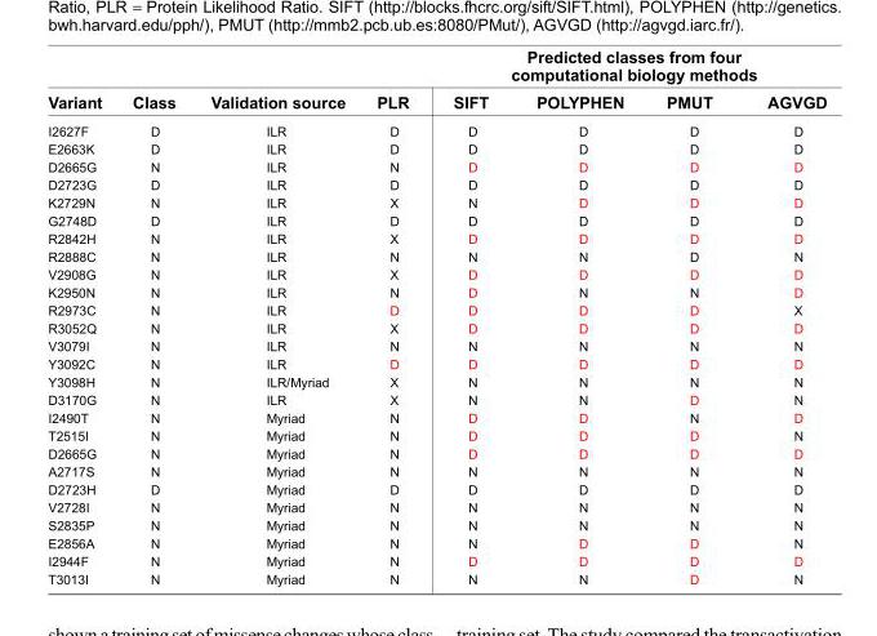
<table><thead><tr><td rowspan="2">Variant</td><td rowspan="2">Class</td><td rowspan="2">Validation source</td><td rowspan="2">PLR</td><td colspan="4">Predicted classes from four computational biology methods</td></tr><tr><td>SIFT</td><td>POLYPHEN</td><td>PMUT</td><td>AGVGD</td></tr></thead><tbody><tr><td>I2627F</td><td>D</td><td>ILR</td><td>D</td><td>D</td><td>D</td><td>D</td><td>D</td></tr><tr><td>E2663K</td><td>D</td><td>ILR</td><td>D</td><td>D</td><td>D</td><td>D</td><td>D</td></tr><tr><td>D2665G</td><td>N</td><td>ILR</td><td>N</td><td>D</td><td>D</td><td>D</td><td>D</td></tr><tr><td>D2723G</td><td>D</td><td>ILR</td><td>D</td><td>D</td><td>D</td><td>D</td><td>D</td></tr><tr><td>K2729N</td><td>N</td><td>ILR</td><td>X</td><td>N</td><td>D</td><td>D</td><td>D</td></tr><tr><td>G2748D</td><td>D</td><td>ILR</td><td>D</td><td>D</td><td>D</td><td>D</td><td>D</td></tr><tr><td>R2842H</td><td>N</td><td>ILR</td><td>X</td><td>D</td><td>D</td><td>D</td><td>D</td></tr><tr><td>R2888C</td><td>N</td><td>ILR</td><td>N</td><td>N</td><td>N</td><td>D</td><td>N</td></tr><tr><td>V2908G</td><td>N</td><td>ILR</td><td>X</td><td>D</td><td>D</td><td>D</td><td>D</td></tr><tr><td>K2950N</td><td>N</td><td>ILR</td><td>N</td><td>D</td><td>N</td><td>N</td><td>D</td></tr><tr><td>R2973C</td><td>N</td><td>ILR</td><td>D</td><td>D</td><td>D</td><td>D</td><td>X</td></tr><tr><td>R3052Q</td><td>N</td><td>ILR</td><td>X</td><td>D</td><td>D</td><td>D</td><td>D</td></tr><tr><td>V3079I</td><td>N</td><td>ILR</td><td>N</td><td>N</td><td>N</td><td>N</td><td>N</td></tr><tr><td>Y3092C</td><td>N</td><td>ILR</td><td>D</td><td>D</td><td>D</td><td>D</td><td>D</td></tr><tr><td>Y3098H</td><td>N</td><td>ILR/Myriad</td><td>X</td><td>N</td><td>N</td><td>N</td><td>N</td></tr><tr><td>D3170G</td><td>N</td><td>ILR</td><td>X</td><td>N</td><td>N</td><td>D</td><td>N</td></tr><tr><td>I2490T</td><td>N</td><td>Myriad</td><td>N</td><td>D</td><td>D</td><td>N</td><td>D</td></tr><tr><td>T2515I</td><td>N</td><td>Myriad</td><td>N</td><td>D</td><td>D</td><td>D</td><td>N</td></tr><tr><td>D2665G</td><td>N</td><td>Myriad</td><td>N</td><td>D</td><td>D</td><td>D</td><td>D</td></tr><tr><td>A2717S</td><td>N</td><td>Myriad</td><td>N</td><td>N</td><td>N</td><td>N</td><td>N</td></tr><tr><td>D2723H</td><td>D</td><td>Myriad</td><td>D</td><td>D</td><td>D</td><td>D</td><td>D</td></tr><tr><td>V2728I</td><td>N</td><td>Myriad</td><td>N</td><td>N</td><td>N</td><td>N</td><td>N</td></tr><tr><td>S2835P</td><td>N</td><td>Myriad</td><td>N</td><td>N</td><td>N</td><td>N</td><td>N</td></tr><tr><td>E2856A</td><td>N</td><td>Myriad</td><td>N</td><td>N</td><td>D</td><td>D</td><td>N</td></tr><tr><td>I2944F</td><td>N</td><td>Myriad</td><td>N</td><td>D</td><td>D</td><td>D</td><td>D</td></tr><tr><td>T3013I</td><td>N</td><td>Myriad</td><td>N</td><td>N</td><td>N</td><td>D</td><td>N</td></tr></tbody></table>